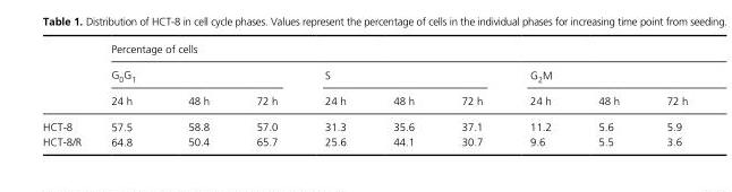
<table><thead><tr><td rowspan="3"></td><td colspan="9">Percentage of cells</td></tr><tr><td colspan="3">G<sub>0</sub>G<sub>1</sub></td><td colspan="3">S</td><td colspan="3">G<sub>2</sub>M</td></tr><tr><td>24 h</td><td>48 h</td><td>72 h</td><td>24 h</td><td>48 h</td><td>72 h</td><td>24 h</td><td>48 h</td><td>72 h</td></tr></thead><tbody><tr><td>HCT- 8</td><td>57.5</td><td>58.8</td><td>57.0</td><td>31.3</td><td>35.6</td><td>37.1</td><td>11.2</td><td>5.6</td><td>5.9</td></tr><tr><td>HCT- 8/R</td><td>64.8</td><td>50.4</td><td>65.7</td><td>25.6</td><td>44.1</td><td>30.7</td><td>9.6</td><td>5.5</td><td>3.6</td></tr></tbody></table>